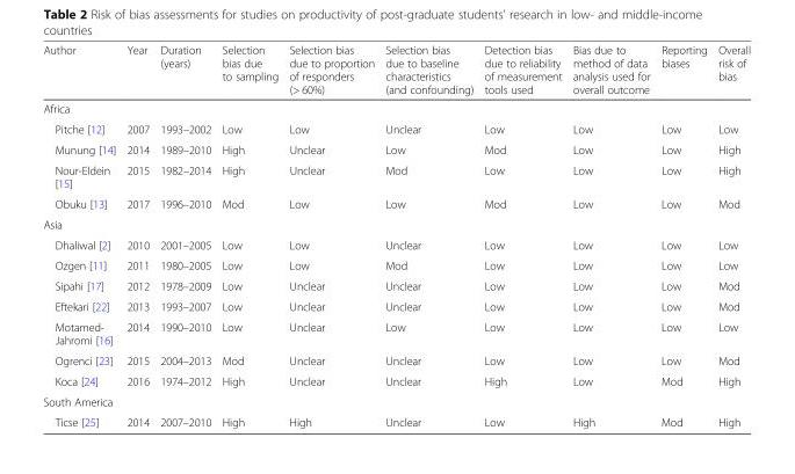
<table><thead><tr><td>Author</td><td>Year</td><td>Duration (years)</td><td>Selection bias due to sampling</td><td>Selection bias due to proportion of responders (&gt; 60%)</td><td>Selection bias due to baseline characteristics (and confounding)</td><td>Detection bias due to reliability of measurement tools used</td><td>Bias due to method of data analysis used for overall outcome</td><td>Reporting biases</td><td>Overall risk of bias</td></tr></thead><tbody><tr><td colspan="10">Africa</td></tr><tr><td>Pitche [12]</td><td>2007</td><td>1993–2002</td><td>Low</td><td>Low</td><td>Unclear</td><td>Low</td><td>Low</td><td>Low</td><td>Low</td></tr><tr><td>Munung [14]</td><td>2014</td><td>1989–2010</td><td>High</td><td>Unclear</td><td>Low</td><td>Mod</td><td>Low</td><td>Low</td><td>High</td></tr><tr><td>Nour-Eldein [15]</td><td>2015</td><td>1982–2014</td><td>High</td><td>Unclear</td><td>Mod</td><td>Low</td><td>Low</td><td>Low</td><td>High</td></tr><tr><td>Obuku [13]</td><td>2017</td><td>1996–2010</td><td>Mod</td><td>Low</td><td>Low</td><td>Mod</td><td>Low</td><td>Low</td><td>Mod</td></tr><tr><td colspan="10">Asia</td></tr><tr><td>Dhaliwal [2]</td><td>2010</td><td>2001–2005</td><td>Low</td><td>Low</td><td>Unclear</td><td>Low</td><td>Low</td><td>Low</td><td>Low</td></tr><tr><td>Ozgen [11]</td><td>2011</td><td>1980–2005</td><td>Low</td><td>Low</td><td>Mod</td><td>Low</td><td>Low</td><td>Low</td><td>Low</td></tr><tr><td>Sipahi [17]</td><td>2012</td><td>1978–2009</td><td>Low</td><td>Unclear</td><td>Unclear</td><td>Low</td><td>Low</td><td>Low</td><td>Mod</td></tr><tr><td>Eftekari [22]</td><td>2013</td><td>1993–2007</td><td>Low</td><td>Unclear</td><td>Unclear</td><td>Low</td><td>Low</td><td>Low</td><td>Mod</td></tr><tr><td>Motamed- Jahromi [16]</td><td>2014</td><td>1990–2010</td><td>Low</td><td>Unclear</td><td>Low</td><td>Low</td><td>Low</td><td>Low</td><td>Low</td></tr><tr><td>Ogrenci [23]</td><td>2015</td><td>2004–2013</td><td>Mod</td><td>Unclear</td><td>Unclear</td><td>Low</td><td>Low</td><td>Low</td><td>Mod</td></tr><tr><td>Koca [24]</td><td>2016</td><td>1974–2012</td><td>High</td><td>Unclear</td><td>Unclear</td><td>High</td><td>Low</td><td>Mod</td><td>High</td></tr><tr><td colspan="10">South America</td></tr><tr><td>Ticse [25]</td><td>2014</td><td>2007–2010</td><td>High</td><td>High</td><td>Unclear</td><td>Low</td><td>High</td><td>Mod</td><td>High</td></tr></tbody></table>